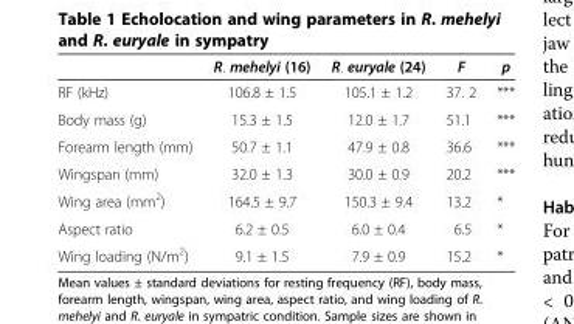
<table><thead><tr><td></td><td>R. mehelyi (16)</td><td>R. euryale (24)</td><td>F</td><td>p</td></tr></thead><tbody><tr><td>RF (kHz)</td><td>106.8 ± 1.5</td><td>105.1 ± 1.2</td><td>37. 2</td><td>***</td></tr><tr><td>Body mass (g)</td><td>15.3 ± 1.5</td><td>12.0 ± 1.7</td><td>51.1</td><td>***</td></tr><tr><td>Forearm length (mm)</td><td>50.7 ± 1.1</td><td>47.9 ± 0.8</td><td>36.6</td><td>***</td></tr><tr><td>Wingspan (mm)</td><td>32.0 ± 1.3</td><td>30.0 ± 0.9</td><td>20.2</td><td>***</td></tr><tr><td>Wing area (mm<sup>2</sup>)</td><td>164.5 ± 9.7</td><td>150.3 ± 9.4</td><td>13.2</td><td>*</td></tr><tr><td>Aspect ratio</td><td>6.2 ± 0.5</td><td>6.0 ± 0.4</td><td>6.5</td><td>*</td></tr><tr><td>Wing loading (N/m<sup>2</sup>)</td><td>9.1 ± 1.5</td><td>7.9 ± 0.9</td><td>15.2</td><td>*</td></tr></tbody></table>